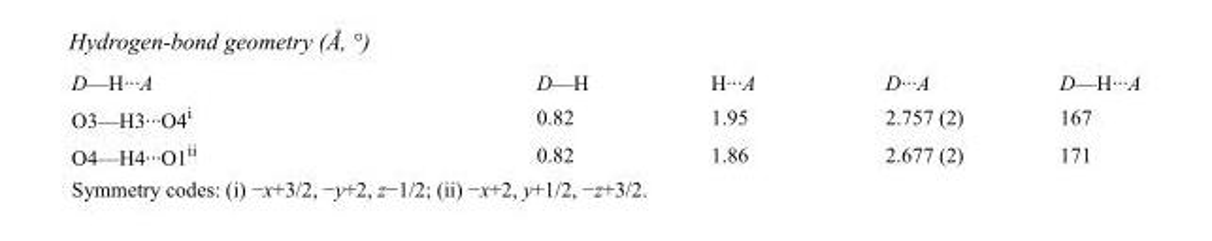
<table><tbody><tr><td>D—H···A</td><td>D—H</td><td>H···A</td><td>D···A</td><td>D—H···A</td></tr><tr><td>O3—H3···O4<sup>i</sup></td><td>0.82</td><td>1.95</td><td>2.757 (2)</td><td>167</td></tr><tr><td>O4—H4···O1<sup>ii</sup></td><td>0.82</td><td>1.86</td><td>2.677 (2)</td><td>171</td></tr></tbody></table>